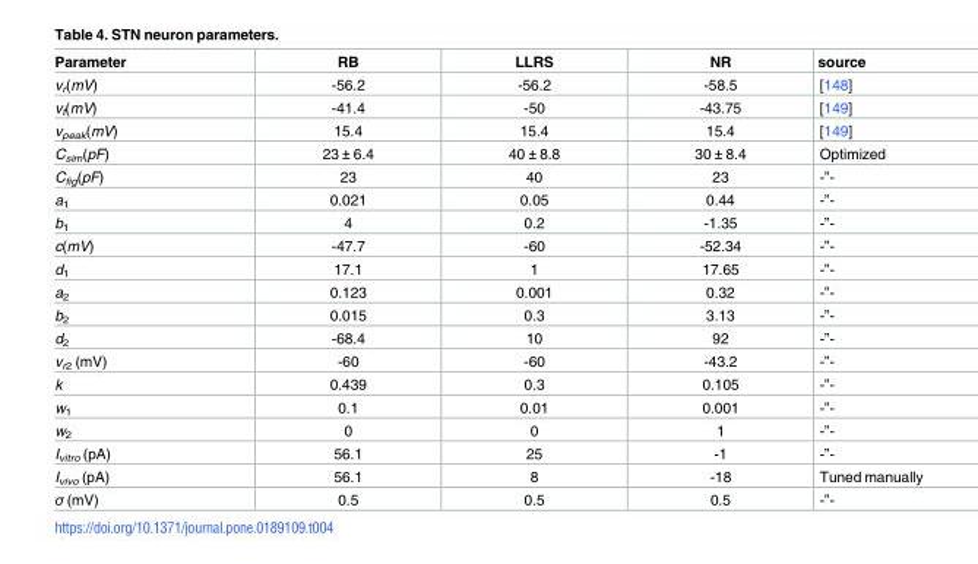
<table><thead><tr><td>Parameter</td><td>RB</td><td>LLRS</td><td>NR</td><td>source</td></tr></thead><tbody><tr><td>v<sub>r</sub>(mV)</td><td>-56.2</td><td>-56.2</td><td>-58.5</td><td>[148]</td></tr><tr><td>v<sub>t</sub>(mV)</td><td>-41.4</td><td>-50</td><td>-43.75</td><td>[149]</td></tr><tr><td>v<sub>peak</sub>(mV)</td><td>15.4</td><td>15.4</td><td>15.4</td><td>[149]</td></tr><tr><td>C<sub>sim</sub>(pF)</td><td>23 ± 6.4</td><td>40 ± 8.8</td><td>30 ± 8.4</td><td>Optimized</td></tr><tr><td>C<sub>fig</sub>(pF)</td><td>23</td><td>40</td><td>23</td><td>-”-</td></tr><tr><td>a<sub>1</sub></td><td>0.021</td><td>0.05</td><td>0.44</td><td>-”-</td></tr><tr><td>b<sub>1</sub></td><td>4</td><td>0.2</td><td>-1.35</td><td>-”-</td></tr><tr><td>c(mV)</td><td>-47.7</td><td>-60</td><td>-52.34</td><td>-”-</td></tr><tr><td>d<sub>1</sub></td><td>17.1</td><td>1</td><td>17.65</td><td>-”-</td></tr><tr><td>a<sub>2</sub></td><td>0.123</td><td>0.001</td><td>0.32</td><td>-”-</td></tr><tr><td>b<sub>2</sub></td><td>0.015</td><td>0.3</td><td>3.13</td><td>-”-</td></tr><tr><td>d<sub>2</sub></td><td>-68.4</td><td>10</td><td>92</td><td>-”-</td></tr><tr><td>v<sub>r2</sub> (mV)</td><td>-60</td><td>-60</td><td>-43.2</td><td>-”-</td></tr><tr><td>k</td><td>0.439</td><td>0.3</td><td>0.105</td><td>-”-</td></tr><tr><td>w<sub>1</sub></td><td>0.1</td><td>0.01</td><td>0.001</td><td>-”-</td></tr><tr><td>w<sub>2</sub></td><td>0</td><td>0</td><td>1</td><td>-”-</td></tr><tr><td>I<sub>vitro</sub> (pA)</td><td>56.1</td><td>25</td><td>-1</td><td>-”-</td></tr><tr><td>I<sub>vivo</sub> (pA)</td><td>56.1</td><td>8</td><td>-18</td><td>Tuned manually</td></tr><tr><td>σ (mV)</td><td>0.5</td><td>0.5</td><td>0.5</td><td>-”-</td></tr></tbody></table>